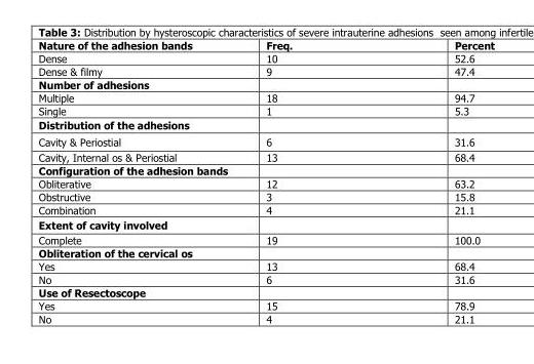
<table><thead><tr><td>Nature of the adhesion bands</td><td>Freq.</td><td>Percent</td></tr></thead><tbody><tr><td>Dense</td><td>10</td><td>52.6</td></tr><tr><td>Dense &amp; filmy</td><td>9</td><td>47.4</td></tr><tr><td colspan="3">Number of adhesions</td></tr><tr><td>Multiple</td><td>18</td><td>94.7</td></tr><tr><td>Single</td><td>1</td><td>5.3</td></tr><tr><td colspan="3">Distribution of the adhesions</td></tr><tr><td>Cavity &amp; Periostial</td><td>6</td><td>31.6</td></tr><tr><td>Cavity, Internal os &amp; Periostial</td><td>13</td><td>68.4</td></tr><tr><td colspan="3">Configuration of the adhesion bands</td></tr><tr><td>Obliterative</td><td>12</td><td>63.2</td></tr><tr><td>Obstructive</td><td>3</td><td>15.8</td></tr><tr><td>Combination</td><td>4</td><td>21.1</td></tr><tr><td colspan="3">Extent of cavity involved</td></tr><tr><td>Complete</td><td>19</td><td>100.0</td></tr><tr><td colspan="3">Obliteration of the cervical os</td></tr><tr><td>Yes</td><td>13</td><td>68.4</td></tr><tr><td>No</td><td>6</td><td>31.6</td></tr><tr><td colspan="3">Use of Resectoscope</td></tr><tr><td>Yes</td><td>15</td><td>78.9</td></tr><tr><td>No</td><td>4</td><td>21.1</td></tr></tbody></table>